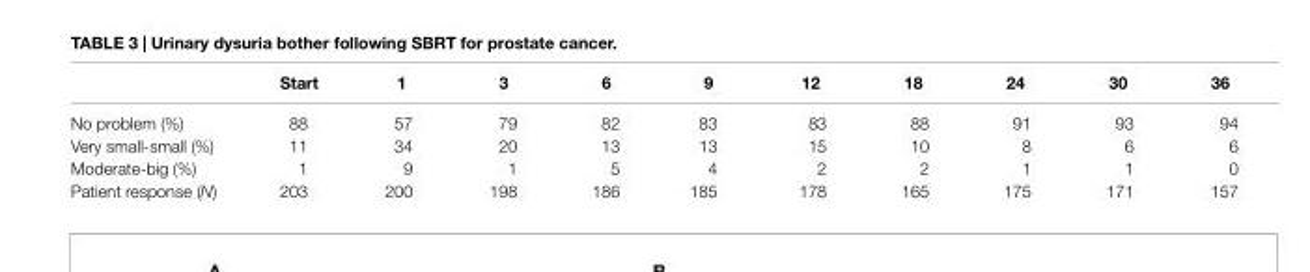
<table><thead><tr><td></td><td>start</td><td>1</td><td>3</td><td>6</td><td>9</td><td>12</td><td>18</td><td>24</td><td>30</td><td>36</td></tr></thead><tbody><tr><td>No problem (%)</td><td>88</td><td>57</td><td>79</td><td>82</td><td>83</td><td>83</td><td>88</td><td>91</td><td>93</td><td>94</td></tr><tr><td>Very small-small (%)</td><td>11</td><td>34</td><td>20</td><td>13</td><td>13</td><td>15</td><td>10</td><td>8</td><td>6</td><td>6</td></tr><tr><td>Moderate-big (%)</td><td>1</td><td>9</td><td>1</td><td>5</td><td>4</td><td>2</td><td>2</td><td>1</td><td>1</td><td>0</td></tr><tr><td>Patient response (N)</td><td>203</td><td>200</td><td>198</td><td>186</td><td>185</td><td>178</td><td>165</td><td>175</td><td>171</td><td>157</td></tr></tbody></table>